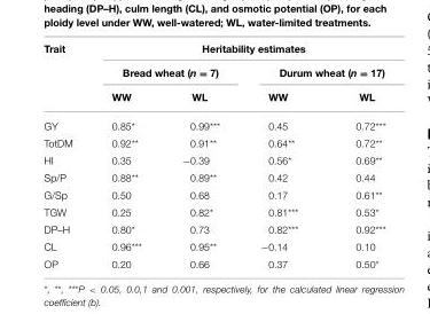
<table><thead><tr><td rowspan="3">Trait</td><td colspan="4">Heritability estimates</td></tr><tr><td colspan="2">Bread wheat (n = 7)</td><td colspan="2">Durum wheat (n = 17)</td></tr><tr><td>WW</td><td>WL</td><td>WW</td><td>WL</td></tr></thead><tbody><tr><td>GY</td><td>0.85*</td><td>0.99***</td><td>0.45</td><td>0.72***</td></tr><tr><td>TotDM</td><td>0.92**</td><td>0.91**</td><td>0.64**</td><td>0.72**</td></tr><tr><td>HI</td><td>0.35</td><td>−0.39</td><td>0.56*</td><td>0.69**</td></tr><tr><td>Sp/P</td><td>0.88**</td><td>0.89**</td><td>0.42</td><td>0.44</td></tr><tr><td>G/Sp</td><td>0.50</td><td>0.68</td><td>0.17</td><td>0.61**</td></tr><tr><td>TGW</td><td>0.25</td><td>0.82*</td><td>0.81***</td><td>0.53*</td></tr><tr><td>DP–H</td><td>0.80*</td><td>0.73</td><td>0.82***</td><td>0.92***</td></tr><tr><td>CL</td><td>0.96***</td><td>0.95**</td><td>−0.14</td><td>0.10</td></tr><tr><td>OP</td><td>0.20</td><td>0.66</td><td>0.37</td><td>0.50*</td></tr></tbody></table>